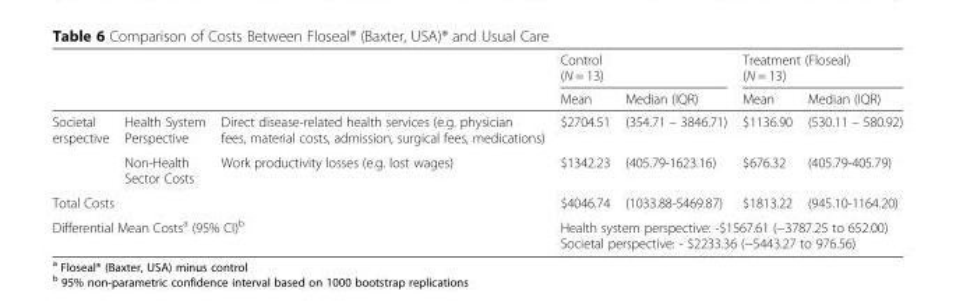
<table><thead><tr><td rowspan="2"></td><td rowspan="2"></td><td rowspan="2"></td><td colspan="2">Control (N = 13)</td><td colspan="2">Treatment (Floseal) (N = 13)</td></tr><tr><td>Mean</td><td>Median (IQR)</td><td>Mean</td><td>Median (IQR)</td></tr></thead><tbody><tr><td rowspan="2">Societal erspective</td><td>Health System Perspective</td><td>Direct disease-related health services (e.g. physician fees, material costs, admission, surgical fees, medications)</td><td>$2704.51</td><td>(354.71 – 3846.71)</td><td>$1136.90</td><td>(530.11 – 580.92)</td></tr><tr><td>Non-Health Sector Costs</td><td>Work productivity losses (e.g. lost wages)</td><td>$1342.23</td><td>(405.79-1623.16)</td><td>$676.32</td><td>(405.79-405.79)</td></tr><tr><td colspan="3">Total Costs</td><td>$4046.74</td><td>(1033.88-5469.87)</td><td>$1813.22</td><td>(945.10-1164.20)</td></tr><tr><td colspan="3">Differential Mean Costs<sup>a</sup> (95% CI)<sup>b</sup></td><td colspan="4">Health system perspective: -$1567.61 (−3787.25 to 652.00) Societal perspective: - $2233.36 (−5443.27 to 976.56)</td></tr></tbody></table>